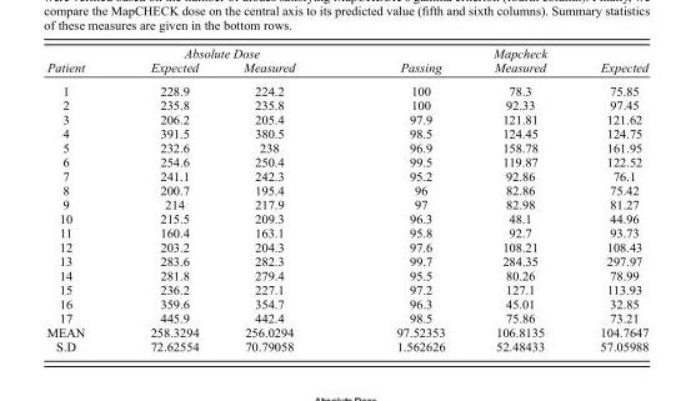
<table><thead><tr><td rowspan="2">Patient</td><td colspan="2">Absolute Dose</td><td rowspan="2">Passing</td><td rowspan="2">Mapcheck Measured</td><td rowspan="2">Expected</td></tr><tr><td>Expected</td><td>Measured</td></tr></thead><tbody><tr><td>1</td><td>228.9</td><td>224.2</td><td>100</td><td>78.3</td><td>75.85</td></tr><tr><td>2</td><td>235.8</td><td>235.8</td><td>100</td><td>92.33</td><td>97.45</td></tr><tr><td>3</td><td>206.2</td><td>205.4</td><td>97.9</td><td>121.81</td><td>121.62</td></tr><tr><td>4</td><td>391.5</td><td>380.5</td><td>98.5</td><td>124.45</td><td>124.75</td></tr><tr><td>5</td><td>232.6</td><td>238</td><td>96.9</td><td>158.78</td><td>161.95</td></tr><tr><td>6</td><td>254.6</td><td>250.4</td><td>99.5</td><td>119.87</td><td>122.52</td></tr><tr><td>7</td><td>241.1</td><td>242.3</td><td>95.2</td><td>92.86</td><td>76.1</td></tr><tr><td>8</td><td>200.7</td><td>195.4</td><td>96</td><td>82.86</td><td>75.42</td></tr><tr><td>9</td><td>214</td><td>217.9</td><td>97</td><td>82.98</td><td>81.27</td></tr><tr><td>10</td><td>215.5</td><td>209.3</td><td>96.3</td><td>48.1</td><td>44.96</td></tr><tr><td>11</td><td>160.4</td><td>163.1</td><td>95.8</td><td>92.7</td><td>93.73</td></tr><tr><td>12</td><td>203.2</td><td>204.3</td><td>97.6</td><td>108.21</td><td>108.43</td></tr><tr><td>13</td><td>283.6</td><td>282.3</td><td>99.7</td><td>284.35</td><td>297.97</td></tr><tr><td>14</td><td>281.8</td><td>279.4</td><td>95.5</td><td>80.26</td><td>78.99</td></tr><tr><td>15</td><td>236.2</td><td>227.1</td><td>97.2</td><td>127.1</td><td>113.93</td></tr><tr><td>16</td><td>359.6</td><td>354.7</td><td>96.3</td><td>45.01</td><td>32.85</td></tr><tr><td>17</td><td>445.9</td><td>442.4</td><td>98.5</td><td>75.86</td><td>73.21</td></tr><tr><td>MEAN</td><td>258.3294</td><td>256.0294</td><td>97.52353</td><td>106.8135</td><td>104.7647</td></tr><tr><td>S.D</td><td>72.62554</td><td>70.79058</td><td>1.562626</td><td>52.48433</td><td>57.05988</td></tr></tbody></table>